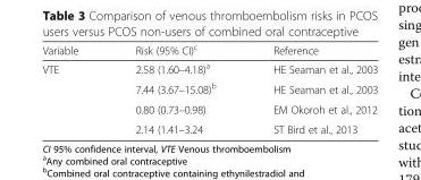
<table><thead><tr><td>Variable</td><td>Risk (95% CI)<sup>c</sup></td><td>Reference</td></tr></thead><tbody><tr><td rowspan="4">VTE</td><td>2.58 (1.60–4.18)<sup>a</sup></td><td>HE Seaman et al., 2003</td></tr><tr><td>7.44 (3.67–15.08)<sup>b</sup></td><td>HE Seaman et al., 2003</td></tr><tr><td>0.80 (0.73–0.98)</td><td>EM Okoroh et al., 2012</td></tr><tr><td>2.14 (1.41–3.24</td><td>ST Bird et al., 2013</td></tr></tbody></table>